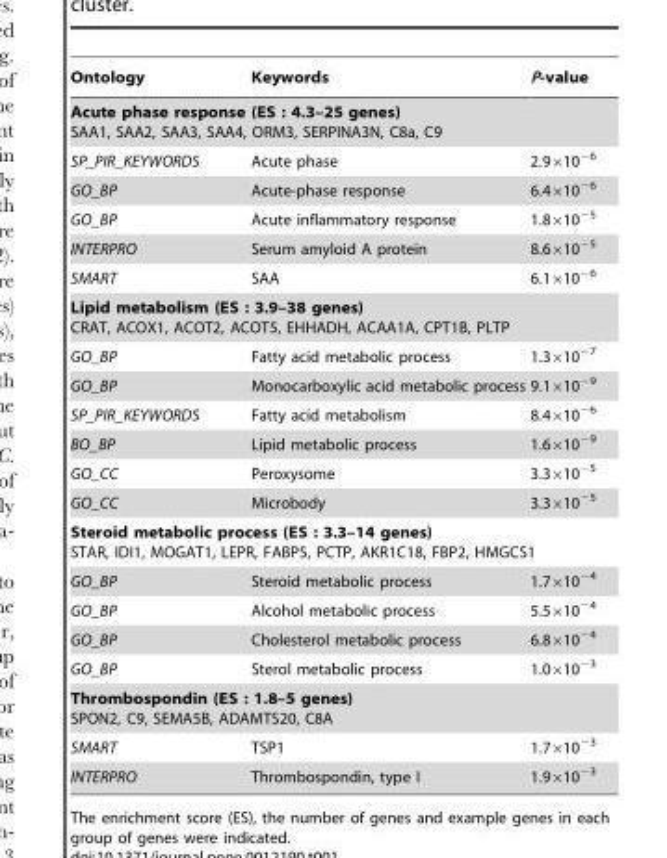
<table><thead><tr><td>Ontology</td><td>Keywords</td><td>P-value</td></tr></thead><tbody><tr><td colspan="3">Acute phase response (ES : 4.3–25 genes) SAA1, SAA2, SAA3, SAA4, ORM3, SERPINA3N, C8a, C9</td></tr><tr><td>SP_PIR_KEYWORDS</td><td>Acute phase</td><td>2.9×10<sup>−6</sup></td></tr><tr><td>GO_BP</td><td>Acute-phase response</td><td>6.4×10<sup>−6</sup></td></tr><tr><td>GO_BP</td><td>Acute inflammatory response</td><td>1.8×10<sup>−5</sup></td></tr><tr><td>INTERPRO</td><td>Serum amyloid A protein</td><td>8.6×10<sup>−5</sup></td></tr><tr><td>SMART</td><td>SAA</td><td>6.1×10<sup>−6</sup></td></tr><tr><td colspan="3">Lipid metabolism (ES : 3.9–38 genes) CRAT, ACOX1, ACOT2, ACOT5, EHHADH, ACAA1A, CPT1B, PLTP</td></tr><tr><td>GO_BP</td><td>Fatty acid metabolic process</td><td>1.3×10<sup>−7</sup></td></tr><tr><td>GO_BP</td><td>Monocarboxylic acid metabolic process</td><td>9.1×10<sup>−9</sup></td></tr><tr><td>SP_PIR_KEYWORDS</td><td>Fatty acid metabolism</td><td>8.4×10<sup>−6</sup></td></tr><tr><td>BO_BP</td><td>Lipid metabolic process</td><td>1.6×10<sup>−9</sup></td></tr><tr><td>GO_CC</td><td>Peroxysome</td><td>3.3×10<sup>−5</sup></td></tr><tr><td>GO_CC</td><td>Microbody</td><td>3.3×10<sup>−5</sup></td></tr><tr><td colspan="3">Steroid metabolic process (ES : 3.3–14 genes) STAR, IDI1, MOGAT1, LEPR, FABP5, PCTP, AKR1C18, FBP2, HMGCS1</td></tr><tr><td>GO_BP</td><td>Steroid metabolic process</td><td>1.7×10<sup>−4</sup></td></tr><tr><td>GO_BP</td><td>Alcohol metabolic process</td><td>5.5×10<sup>−4</sup></td></tr><tr><td>GO_BP</td><td>Cholesterol metabolic process</td><td>6.8×10<sup>−4</sup></td></tr><tr><td>GO_BP</td><td>Sterol metabolic process</td><td>1.0×10<sup>−3</sup></td></tr><tr><td colspan="3">Thrombospondin (ES : 1.8–5 genes) SPON2, C9, SEMA5B, ADAMTS20, C8A</td></tr><tr><td>SMART</td><td>TSP1</td><td>1.7×10<sup>−3</sup></td></tr><tr><td>INTERPRO</td><td>Thrombospondin, type I</td><td>1.9×10<sup>−3</sup></td></tr></tbody></table>